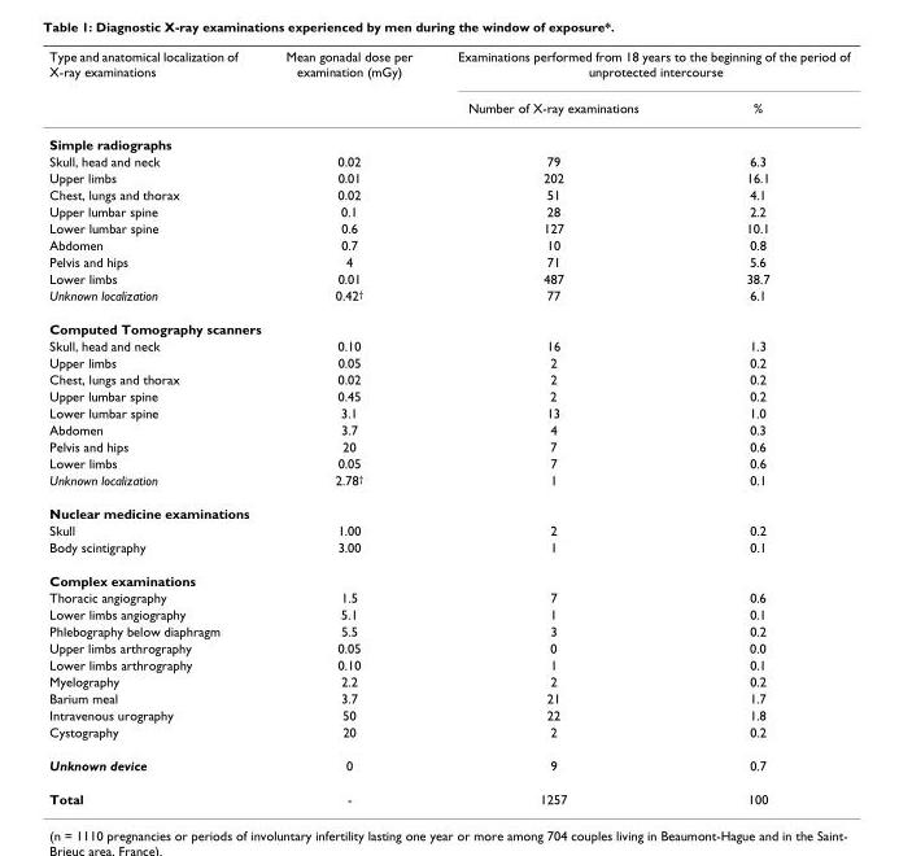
<table><thead><tr><td rowspan="2">Type and anatomical localization of X-ray examinations</td><td rowspan="2">Mean gonadal dose per examination (mGy)</td><td colspan="2">Examinations performed from 18 years to the beginning of the period of unprotected intercourse</td></tr><tr><td>Number of X-ray examinations</td><td>%</td></tr></thead><tbody><tr><td colspan="4">Simple radiographs</td></tr><tr><td>Skull, head and neck</td><td>0.02</td><td>79</td><td>6.3</td></tr><tr><td>Upper limbs</td><td>0.01</td><td>202</td><td>16.1</td></tr><tr><td>Chest, lungs and thorax</td><td>0.02</td><td>51</td><td>4.1</td></tr><tr><td>Upper lumbar spine</td><td>0.1</td><td>28</td><td>2.2</td></tr><tr><td>Lower lumbar spine</td><td>0.6</td><td>127</td><td>10.1</td></tr><tr><td>Abdomen</td><td>0.7</td><td>10</td><td>0.8</td></tr><tr><td>Pelvis and hips</td><td>4</td><td>71</td><td>5.6</td></tr><tr><td>Lower limbs</td><td>0.01</td><td>487</td><td>38.7</td></tr><tr><td>Unknown localization</td><td>0.42†</td><td>77</td><td>6.1</td></tr><tr><td colspan="4">Computed Tomography scanners</td></tr><tr><td>Skull, head and neck</td><td>0.10</td><td>16</td><td>1.3</td></tr><tr><td>Upper limbs</td><td>0.05</td><td>2</td><td>0.2</td></tr><tr><td>Chest, lungs and thorax</td><td>0.02</td><td>2</td><td>0.2</td></tr><tr><td>Upper lumbar spine</td><td>0.45</td><td>2</td><td>0.2</td></tr><tr><td>Lower lumbar spine</td><td>3.1</td><td>13</td><td>1.0</td></tr><tr><td>Abdomen</td><td>3.7</td><td>4</td><td>0.3</td></tr><tr><td>Pelvis and hips</td><td>20</td><td>7</td><td>0.6</td></tr><tr><td>Lower limbs</td><td>0.05</td><td>7</td><td>0.6</td></tr><tr><td>Unknown localization</td><td>2.78†</td><td>1</td><td>0.1</td></tr><tr><td colspan="4">Nuclear medicine examinations</td></tr><tr><td>Skull</td><td>1.00</td><td>2</td><td>0.2</td></tr><tr><td>Body scintigraphy</td><td>3.00</td><td>1</td><td>0.1</td></tr><tr><td colspan="4">Complex examinations</td></tr><tr><td>Thoracic angiography</td><td>1.5</td><td>7</td><td>0.6</td></tr><tr><td>Lower limbs angiography</td><td>5.1</td><td>1</td><td>0.1</td></tr><tr><td>Phlebography below diaphragm</td><td>5.5</td><td>3</td><td>0.2</td></tr><tr><td>Upper limbs arthrography</td><td>0.05</td><td>0</td><td>0.0</td></tr><tr><td>Lower limbs arthrography</td><td>0.10</td><td>1</td><td>0.1</td></tr><tr><td>Myelography</td><td>2.2</td><td>2</td><td>0.2</td></tr><tr><td>Barium meal</td><td>3.7</td><td>21</td><td>1.7</td></tr><tr><td>Intravenous urography</td><td>50</td><td>22</td><td>1.8</td></tr><tr><td>Cystography</td><td>20</td><td>2</td><td>0.2</td></tr><tr><td>Unknown device</td><td>0</td><td>9</td><td>0.7</td></tr><tr><td>Total</td><td>-</td><td>1257</td><td>100</td></tr></tbody></table>